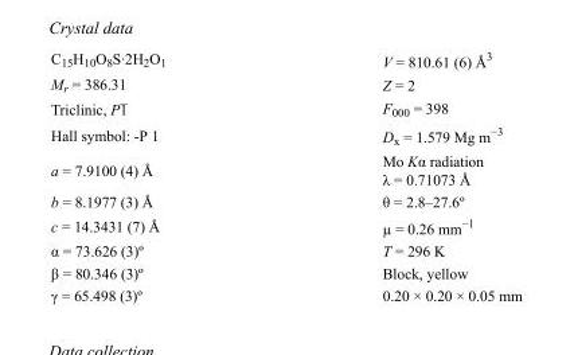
<table><tbody><tr><td>C15H10O8S·2H2O1</td><td>V = 810.61 (6) Å<sup>3</sup></td></tr><tr><td>M<sub>r</sub> = 386.31</td><td>Z = 2</td></tr><tr><td>Triclinic, P1</td><td>F000 = 398</td></tr><tr><td>Hall symbol: -P 1</td><td>D<sub>x</sub> = 1.579 Mg m<sup>−3</sup></td></tr><tr><td>a = 7.9100 (4) Å</td><td>Mo Kα radiation λ = 0.71073 Å</td></tr><tr><td>b = 8.1977 (3) Å</td><td>θ = 2.8–27.6º</td></tr><tr><td>c = 14.3431 (7) Å</td><td>µ = 0.26 mm<sup>−1</sup></td></tr><tr><td>α = 73.626 (3)º</td><td>T = 296 K</td></tr><tr><td>β = 80.346 (3)º</td><td>Block, yellow</td></tr><tr><td>γ = 65.498 (3)º</td><td>0.20 × 0.20 × 0.05 mm</td></tr></tbody></table>